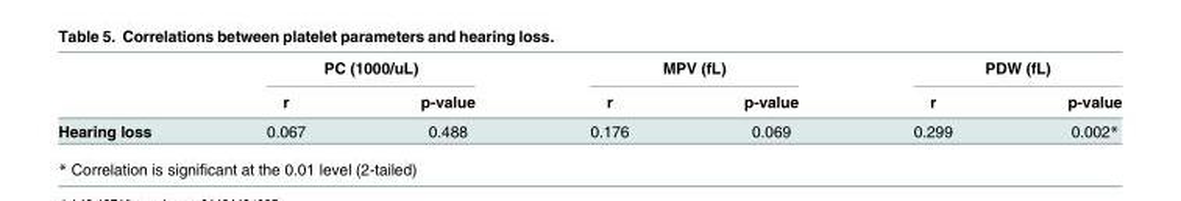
<table><thead><tr><td rowspan="2"></td><td colspan="2">PC (1000/uL)</td><td colspan="2">MPV (fL)</td><td colspan="2">PDW (fL)</td></tr><tr><td>r</td><td>p-value</td><td>r</td><td>p-value</td><td>r</td><td>p-value</td></tr></thead><tbody><tr><td>Hearing loss</td><td>0.067</td><td>0.488</td><td>0.176</td><td>0.069</td><td>0.299</td><td>0.002*</td></tr></tbody></table>